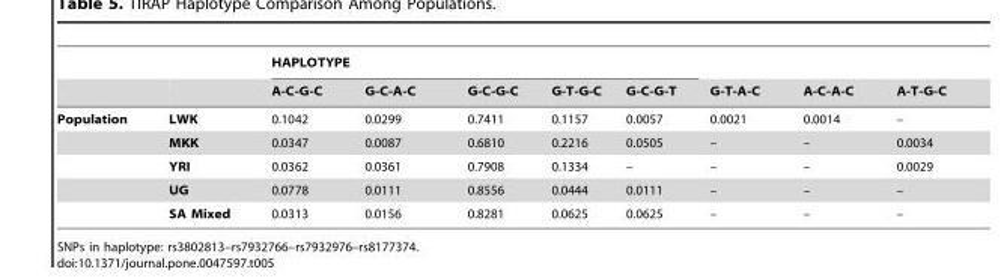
<table><thead><tr><td rowspan="2"></td><td rowspan="2"></td><td colspan="5">HAPLOTYPE</td><td rowspan="2">G-T-A-C</td><td rowspan="2">A-C-A-C</td><td rowspan="2">A-T-G-C</td></tr><tr><td>A-C-G-C</td><td>G-C-A-C</td><td>G-C-G-C</td><td>G-T-G-C</td><td>G-C-G-T</td></tr></thead><tbody><tr><td rowspan="5">Population</td><td>LWK</td><td>0.1042</td><td>0.0299</td><td>0.7411</td><td>0.1157</td><td>0.0057</td><td>0.0021</td><td>0.0014</td><td>–</td></tr><tr><td>MKK</td><td>0.0347</td><td>0.0087</td><td>0.6810</td><td>0.2216</td><td>0.0505</td><td>–</td><td>–</td><td>0.0034</td></tr><tr><td>YRI</td><td>0.0362</td><td>0.0361</td><td>0.7908</td><td>0.1334</td><td>–</td><td>–</td><td>–</td><td>0.0029</td></tr><tr><td>UG</td><td>0.0778</td><td>0.0111</td><td>0.8556</td><td>0.0444</td><td>0.0111</td><td>–</td><td>–</td><td>–</td></tr><tr><td>SA Mixed</td><td>0.0313</td><td>0.0156</td><td>0.8281</td><td>0.0625</td><td>0.0625</td><td>–</td><td>–</td><td>–</td></tr></tbody></table>